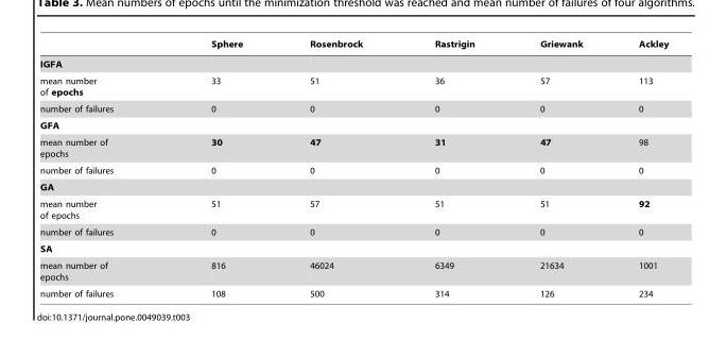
<table><thead><tr><td></td><td>Sphere</td><td>Rosenbrock</td><td>Rastrigin</td><td>Griewank</td><td>Ackley</td></tr></thead><tbody><tr><td colspan="6">IGFA</td></tr><tr><td>mean number of epochs</td><td>33</td><td>51</td><td>36</td><td>57</td><td>113</td></tr><tr><td>number of failures</td><td>0</td><td>0</td><td>0</td><td>0</td><td>0</td></tr><tr><td colspan="6">GFA</td></tr><tr><td>mean number of epochs</td><td>30</td><td>47</td><td>31</td><td>47</td><td>98</td></tr><tr><td>number of failures</td><td>0</td><td>0</td><td>0</td><td>0</td><td>0</td></tr><tr><td colspan="6">GA</td></tr><tr><td>mean number of epochs</td><td>51</td><td>57</td><td>51</td><td>51</td><td>92</td></tr><tr><td>number of failures</td><td>0</td><td>0</td><td>0</td><td>0</td><td>0</td></tr><tr><td colspan="6">SA</td></tr><tr><td>mean number of epochs</td><td>816</td><td>46024</td><td>6349</td><td>21634</td><td>1001</td></tr><tr><td>number of failures</td><td>108</td><td>500</td><td>314</td><td>126</td><td>234</td></tr></tbody></table>